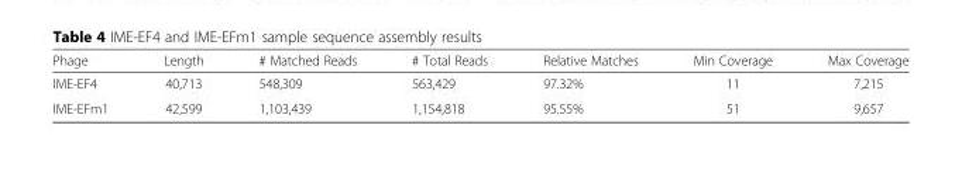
<table><thead><tr><td>Phage</td><td>Length</td><td># Matched Reads</td><td># Total Reads</td><td>Relative Matches</td><td>Min Coverage</td><td>Max Coverage</td></tr></thead><tbody><tr><td>IME-EF4</td><td>40,713</td><td>548,309</td><td>563,429</td><td>97.32%</td><td>11</td><td>7,215</td></tr><tr><td>IME-EFm1</td><td>42,599</td><td>1,103,439</td><td>1,154,818</td><td>95.55%</td><td>51</td><td>9,657</td></tr></tbody></table>